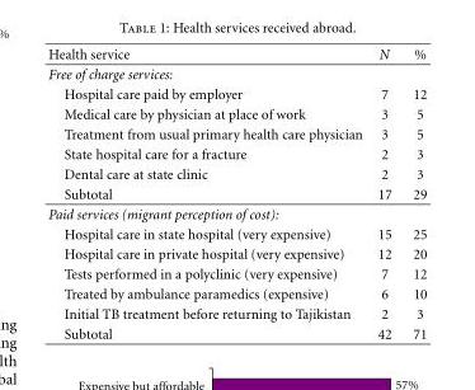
<table><thead><tr><td>Health service</td><td>N</td><td>%</td></tr></thead><tbody><tr><td colspan="3">Free of charge services:</td></tr><tr><td>Hospital care paid by employer</td><td>7</td><td>12</td></tr><tr><td>Medical care by physician at place of work</td><td>3</td><td>5</td></tr><tr><td>Treatment from usual primary health care physician</td><td>3</td><td>5</td></tr><tr><td>State hospital care for a fracture</td><td>2</td><td>3</td></tr><tr><td>Dental care at state clinic</td><td>2</td><td>3</td></tr><tr><td>Subtotal</td><td>17</td><td>29</td></tr><tr><td colspan="3">Paid services (migrant perception of cost):</td></tr><tr><td>Hospital care in state hospital (very expensive)</td><td>15</td><td>25</td></tr><tr><td>Hospital care in private hospital (very expensive)</td><td>12</td><td>20</td></tr><tr><td>Tests performed in a polyclinic (very expensive)</td><td>7</td><td>12</td></tr><tr><td>Treated by ambulance paramedics (expensive)</td><td>6</td><td>10</td></tr><tr><td>Initial TB treatment before returning to Tajikistan</td><td>2</td><td>3</td></tr><tr><td>Subtotal</td><td>42</td><td>71</td></tr></tbody></table>